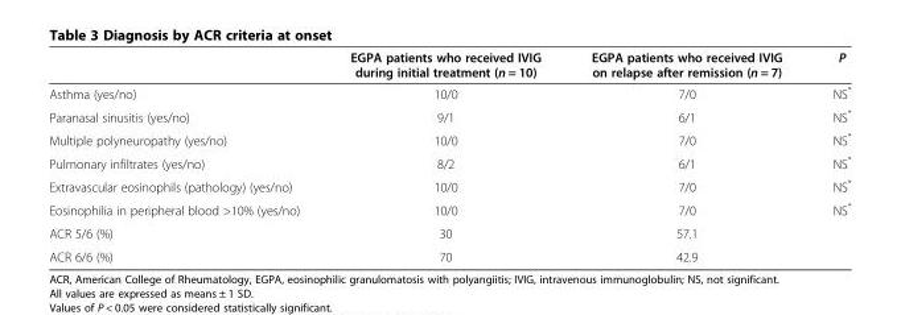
<table><thead><tr><td></td><td>EGPA patients who received IVIG during initial treatment (n = 10)</td><td>EGPA patients who received IVIG on relapse after remission (n = 7)</td><td>P</td></tr></thead><tbody><tr><td>Asthma (yes/no)</td><td>10/0</td><td>7/0</td><td>NS*</td></tr><tr><td>Paranasal sinusitis (yes/no)</td><td>9/1</td><td>6/1</td><td>NS*</td></tr><tr><td>Multiple polyneuropathy (yes/no)</td><td>10/0</td><td>7/0</td><td>NS*</td></tr><tr><td>Pulmonary infiltrates (yes/no)</td><td>8/2</td><td>6/1</td><td>NS*</td></tr><tr><td>Extravascular eosinophils (pathology) (yes/no)</td><td>10/0</td><td>7/0</td><td>NS*</td></tr><tr><td>Eosinophilia in peripheral blood &gt;10% (yes/no)</td><td>10/0</td><td>7/0</td><td>NS*</td></tr><tr><td>ACR 5/6 (%)</td><td>30</td><td>57.1</td><td></td></tr><tr><td>ACR 6/6 (%)</td><td>70</td><td>42.9</td><td></td></tr></tbody></table>